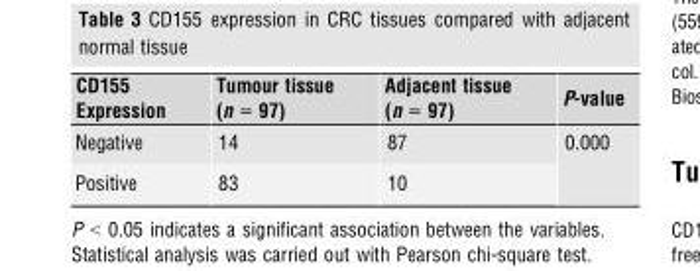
<table><thead><tr><td>CD155 Expression</td><td>Tumour tissue (n = 97)</td><td>Adjacent tissue (n = 97)</td><td>P-value</td></tr></thead><tbody><tr><td>Negative</td><td>14</td><td>87</td><td rowspan="2">0.000</td></tr><tr><td>Positive</td><td>83</td><td>10</td></tr></tbody></table>